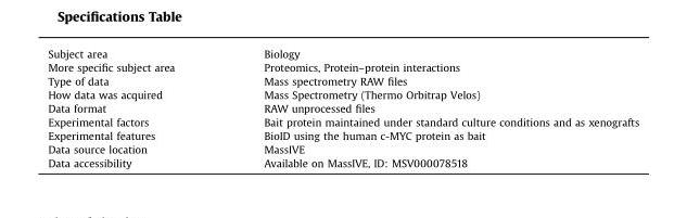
<table><tbody><tr><td>Subject area</td><td>Biology</td></tr><tr><td>More specific subject area</td><td>Proteomics, Protein–protein interactions</td></tr><tr><td>Type of data</td><td>Mass spectrometry RAW files</td></tr><tr><td>How data was acquired</td><td>Mass Spectrometry (Thermo Orbitrap Velos)</td></tr><tr><td>Data format</td><td>RAW unprocessed files</td></tr><tr><td>Experimental factors</td><td>Bait protein maintained under standard culture conditions and as xenografts</td></tr><tr><td>Experimental features</td><td>BioID using the human c-MYC protein as bait</td></tr><tr><td>Data source location</td><td>MassIVE</td></tr><tr><td>Data accessibility</td><td>Available on MassIVE, ID: MSV000078518</td></tr></tbody></table>